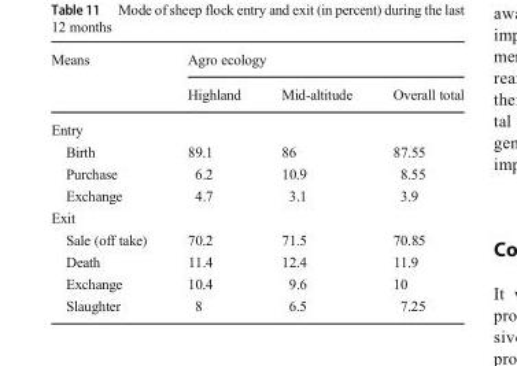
<table><thead><tr><td rowspan="2">Means</td><td colspan="3">Agro ecology</td></tr><tr><td>Highland</td><td>Mid-altitude</td><td>Overall total</td></tr></thead><tbody><tr><td colspan="4">Entry</td></tr><tr><td>Birth</td><td>89.1</td><td>86</td><td>87.55</td></tr><tr><td>Purchase</td><td>6.2</td><td>10.9</td><td>8.55</td></tr><tr><td>Exchange</td><td>4.7</td><td>3.1</td><td>3.9</td></tr><tr><td colspan="4">Exit</td></tr><tr><td>Sale (off take)</td><td>70.2</td><td>71.5</td><td>70.85</td></tr><tr><td>Death</td><td>11.4</td><td>12.4</td><td>11.9</td></tr><tr><td>Exchange</td><td>10.4</td><td>9.6</td><td>10</td></tr><tr><td>Slaughter</td><td>8</td><td>6.5</td><td>7.25</td></tr></tbody></table>